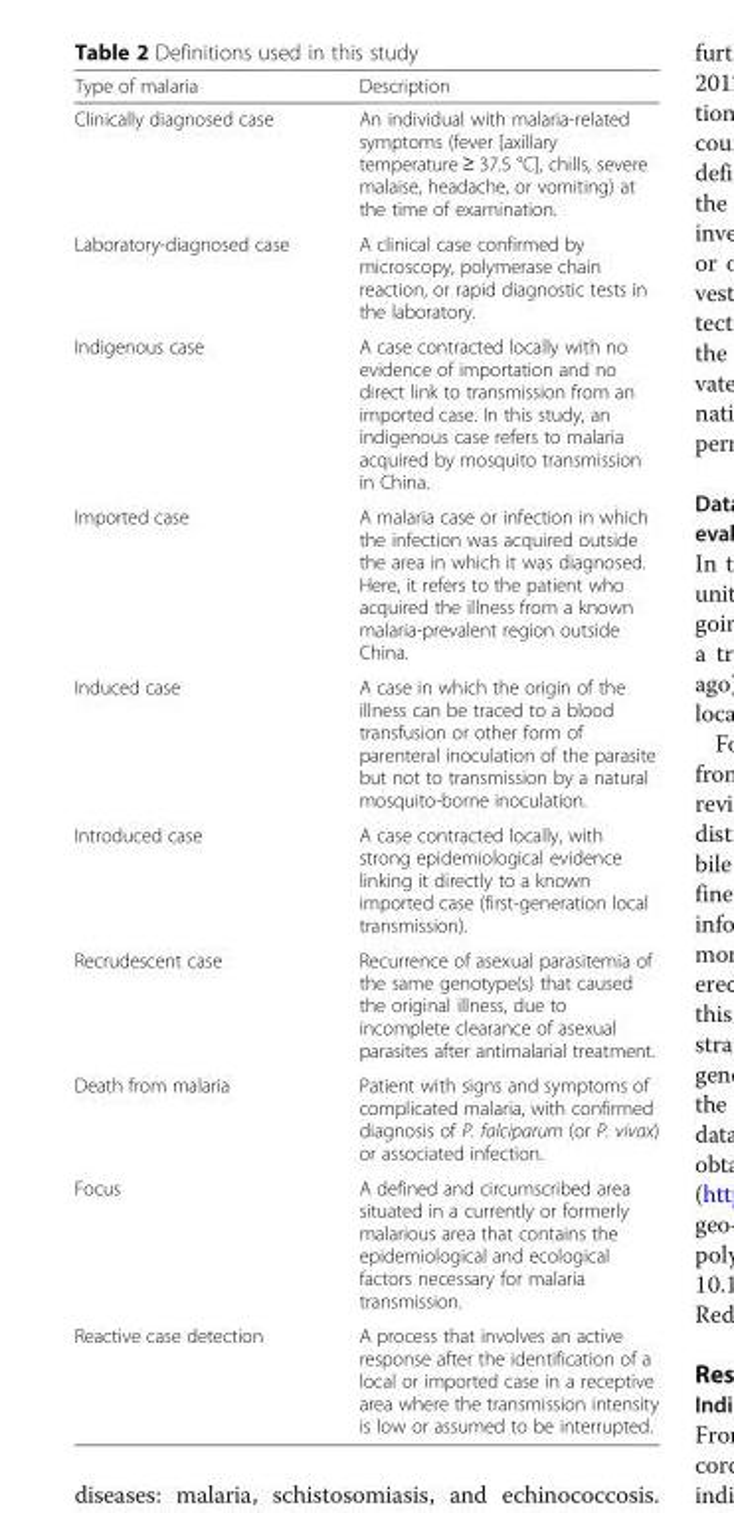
<table><thead><tr><td>Type of malaria</td><td>Description</td></tr></thead><tbody><tr><td>Clinically diagnosed case</td><td>An individual with malaria-related symptoms (fever [axillary temperature ≥ 37.5 °C], chills, severe malaise, headache, or vomiting) at the time of examination.</td></tr><tr><td>Laboratory-diagnosed case</td><td>A clinical case confirmed by microscopy, polymerase chain reaction, or rapid diagnostic tests in the laboratory.</td></tr><tr><td>Indigenous case</td><td>A case contracted locally with no evidence of importation and no direct link to transmission from an imported case. In this study, an indigenous case refers to malaria acquired by mosquito transmission in China.</td></tr><tr><td>Imported case</td><td>A malaria case or infection in which the infection was acquired outside the area in which it was diagnosed. Here, it refers to the patient who acquired the illness from a known malaria-prevalent region outside China.</td></tr><tr><td>Induced case</td><td>A case in which the origin of the illness can be traced to a blood transfusion or other form of parenteral inoculation of the parasite but not to transmission by a natural mosquito-borne inoculation.</td></tr><tr><td>Introduced case</td><td>A case contracted locally, with strong epidemiological evidence linking it directly to a known imported case (first-generation local transmission).</td></tr><tr><td>Recrudescent case</td><td>Recurrence of asexual parasitemia of the same genotype(s) that caused the original illness, due to incomplete clearance of asexual parasites after antimalarial treatment.</td></tr><tr><td>Death from malaria</td><td>Patient with signs and symptoms of complicated malaria, with confirmed diagnosis of P. falciparum (or P. vivax) or associated infection.</td></tr><tr><td>Focus</td><td>A defined and circumscribed area situated in a currently or formerly malarious area that contains the epidemiological and ecological factors necessary for malaria transmission.</td></tr><tr><td>Reactive case detection</td><td>A process that involves an active response after the identification of a local or imported case in a receptive area where the transmission intensity is low or assumed to be interrupted.</td></tr></tbody></table>